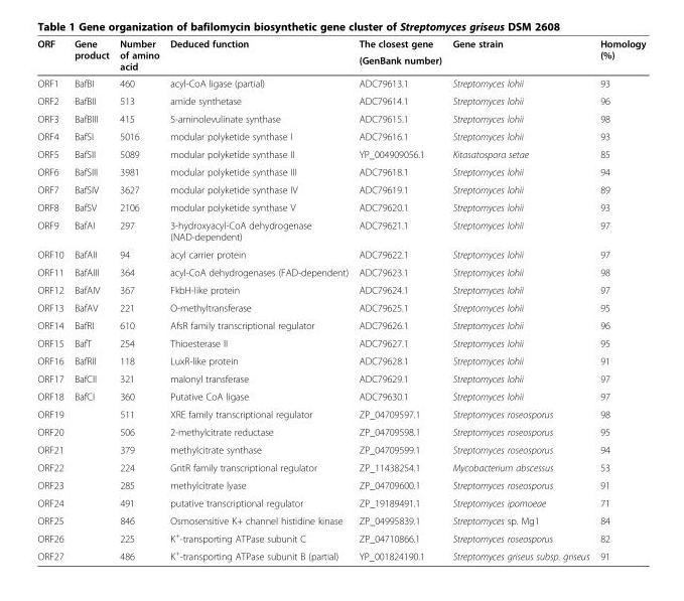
<table><thead><tr><td rowspan="2">ORF</td><td rowspan="2">Gene product</td><td rowspan="2">Number of amino acid</td><td rowspan="2">Deduced function</td><td rowspan="2">The closest gene (GenBank number)</td><td rowspan="2">Gene strain</td><td rowspan="2">Homology (%)</td></tr><tr></tr></thead><tbody><tr><td>ORF1</td><td>BafBI</td><td>460</td><td>acyl-CoA ligase (partial)</td><td>ADC79613.1</td><td>Streptomyces lohii</td><td>93</td></tr><tr><td>ORF2</td><td>BafBII</td><td>513</td><td>amide synthetase</td><td>ADC79614.1</td><td>Streptomyces lohii</td><td>96</td></tr><tr><td>ORF3</td><td>BafBIII</td><td>415</td><td>5-aminolevulinate synthase</td><td>ADC79615.1</td><td>Streptomyces lohii</td><td>98</td></tr><tr><td>ORF4</td><td>BafSI</td><td>5016</td><td>modular polyketide synthase I</td><td>ADC79616.1</td><td>Streptomyces lohii</td><td>93</td></tr><tr><td>ORF5</td><td>BafSII</td><td>5089</td><td>modular polyketide synthase II</td><td>YP_004909056.1</td><td>Kitasatospora setae</td><td>85</td></tr><tr><td>ORF6</td><td>BafSIII</td><td>3981</td><td>modular polyketide synthase III</td><td>ADC79618.1</td><td>Streptomyces lohii</td><td>94</td></tr><tr><td>ORF7</td><td>BafSIV</td><td>3627</td><td>modular polyketide synthase IV</td><td>ADC79619.1</td><td>Streptomyces lohii</td><td>89</td></tr><tr><td>ORF8</td><td>BafSV</td><td>2106</td><td>modular polyketide synthase V</td><td>ADC79620.1</td><td>Streptomyces lohii</td><td>93</td></tr><tr><td>ORF9</td><td>BafAI</td><td>297</td><td>3-hydroxyacyl-CoA dehydrogenase (NAD-dependent)</td><td>ADC79621.1</td><td>Streptomyces lohii</td><td>97</td></tr><tr><td>ORF10</td><td>BafAII</td><td>94</td><td>acyl carrier protein</td><td>ADC79622.1</td><td>Streptomyces lohii</td><td>97</td></tr><tr><td>ORF11</td><td>BafAIII</td><td>364</td><td>acyl-CoA dehydrogenases (FAD-dependent)</td><td>ADC79623.1</td><td>Streptomyces lohii</td><td>98</td></tr><tr><td>ORF12</td><td>BafAIV</td><td>367</td><td>FkbH-like protein</td><td>ADC79624.1</td><td>Streptomyces lohii</td><td>97</td></tr><tr><td>ORF13</td><td>BafAV</td><td>221</td><td>O-methyltransferase</td><td>ADC79625.1</td><td>Streptomyces lohii</td><td>95</td></tr><tr><td>ORF14</td><td>BafRI</td><td>610</td><td>AfsR family transcriptional regulator</td><td>ADC79626.1</td><td>Streptomyces lohii</td><td>96</td></tr><tr><td>ORF15</td><td>BafT</td><td>254</td><td>Thioesterase II</td><td>ADC79627.1</td><td>Streptomyces lohii</td><td>95</td></tr><tr><td>ORF16</td><td>BafRII</td><td>118</td><td>LuxR-like protein</td><td>ADC79628.1</td><td>Streptomyces lohii</td><td>91</td></tr><tr><td>ORF17</td><td>BafCII</td><td>321</td><td>malonyl transferase</td><td>ADC79629.1</td><td>Streptomyces lohii</td><td>97</td></tr><tr><td>ORF18</td><td>BafCI</td><td>360</td><td>Putative CoA ligase</td><td>ADC79630.1</td><td>Streptomyces lohii</td><td>97</td></tr><tr><td>ORF19</td><td></td><td>511</td><td>XRE family transcriptional regulator</td><td>ZP_04709597.1</td><td>Streptomyces roseosporus</td><td>98</td></tr><tr><td>ORF20</td><td></td><td>506</td><td>2-methylcitrate reductase</td><td>ZP_04709598.1</td><td>Streptomyces roseosporus</td><td>95</td></tr><tr><td>ORF21</td><td></td><td>379</td><td>methylcitrate synthase</td><td>ZP_04709599.1</td><td>Streptomyces roseosporus</td><td>94</td></tr><tr><td>ORF22</td><td></td><td>224</td><td>GntR family transcriptional regulator</td><td>ZP_11438254.1</td><td>Mycobacterium abscessus</td><td>53</td></tr><tr><td>ORF23</td><td></td><td>285</td><td>methylcitrate lyase</td><td>ZP_04709600.1</td><td>Streptomyces roseosporus</td><td>91</td></tr><tr><td>ORF24</td><td></td><td>491</td><td>putative transcriptional regulator</td><td>ZP_19189491.1</td><td>Streptomyces ipomoeae</td><td>71</td></tr><tr><td>ORF25</td><td></td><td>846</td><td>Osmosensitive K+ channel histidine kinase</td><td>ZP_04995839.1</td><td>Streptomyces sp. Mg1</td><td>84</td></tr><tr><td>ORF26</td><td></td><td>225</td><td>K<sup>+</sup>-transporting ATPase subunit C</td><td>ZP_04710866.1</td><td>Streptomyces roseosporus</td><td>82</td></tr><tr><td>ORF27</td><td></td><td>486</td><td>K<sup>+</sup>-transporting ATPase subunit B (partial)</td><td>YP_001824190.1</td><td>Streptomyces griseus subsp. griseus</td><td>91</td></tr></tbody></table>